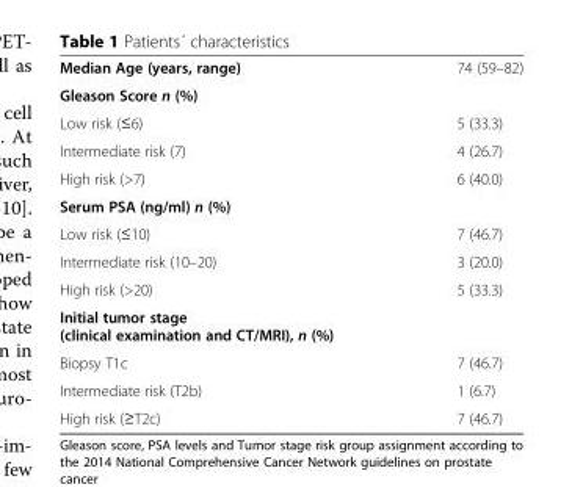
<table><tbody><tr><td>Median Age (years, range)</td><td>74 (59–82)</td></tr><tr><td colspan="2">Gleason Score n (%)</td></tr><tr><td>Low risk (≤6)</td><td>5 (33.3)</td></tr><tr><td>Intermediate risk (7)</td><td>4 (26.7)</td></tr><tr><td>High risk (&gt;7)</td><td>6 (40.0)</td></tr><tr><td colspan="2">Serum PSA (ng/ml) n (%)</td></tr><tr><td>Low risk (≤10)</td><td>7 (46.7)</td></tr><tr><td>Intermediate risk (10–20)</td><td>3 (20.0)</td></tr><tr><td>High risk (&gt;20)</td><td>5 (33.3)</td></tr><tr><td colspan="2">Initial tumor stage (clinical examination and CT/MRI), n (%)</td></tr><tr><td>Biopsy T1c</td><td>7 (46.7)</td></tr><tr><td>Intermediate risk (T2b)</td><td>1 (6.7)</td></tr><tr><td>High risk (≥T2c)</td><td>7 (46.7)</td></tr></tbody></table>